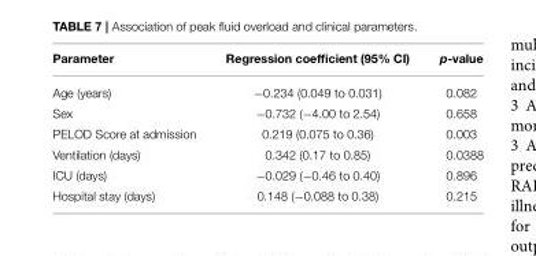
<table><thead><tr><td>Parameter</td><td>Regression coefficient (95% CI)</td><td>p-value</td></tr></thead><tbody><tr><td>Age (years)</td><td>−0.234 (0.049 to 0.031)</td><td>0.082</td></tr><tr><td>Sex</td><td>−0.732 (−4.00 to 2.54)</td><td>0.658</td></tr><tr><td>PELOD Score at admission</td><td>0.219 (0.075 to 0.36)</td><td>0.003</td></tr><tr><td>Ventilation (days)</td><td>0.342 (0.17 to 0.85)</td><td>0.0388</td></tr><tr><td>ICU (days)</td><td>−0.029 (−0.46 to 0.40)</td><td>0.896</td></tr><tr><td>Hospital stay (days)</td><td>0.148 (−0.088 to 0.38)</td><td>0.215</td></tr></tbody></table>